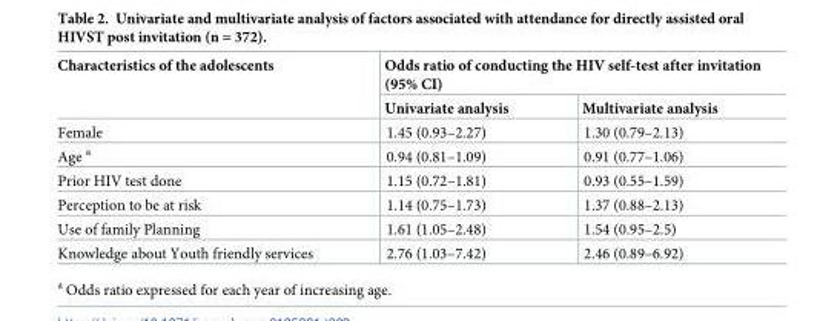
<table><thead><tr><td rowspan="2">Characteristics of the adolescents</td><td colspan="2">Odds ratio of conducting the HIV self-test after invitation (95% CI)</td></tr><tr><td>Univariate analysis</td><td>Multivariate analysis</td></tr></thead><tbody><tr><td>Female</td><td>1.45 (0.93–2.27)</td><td>1.30 (0.79–2.13)</td></tr><tr><td>Age <sup>a</sup></td><td>0.94 (0.81–1.09)</td><td>0.91 (0.77–1.06)</td></tr><tr><td>Prior HIV test done</td><td>1.15 (0.72–1.81)</td><td>0.93 (0.55–1.59)</td></tr><tr><td>Perception to be at risk</td><td>1.14 (0.75–1.73)</td><td>1.37 (0.88–2.13)</td></tr><tr><td>Use of family Planning</td><td>1.61 (1.05–2.48)</td><td>1.54 (0.95–2.5)</td></tr><tr><td>Knowledge about Youth friendly services</td><td>2.76 (1.03–7.42)</td><td>2.46 (0.89–6.92)</td></tr></tbody></table>